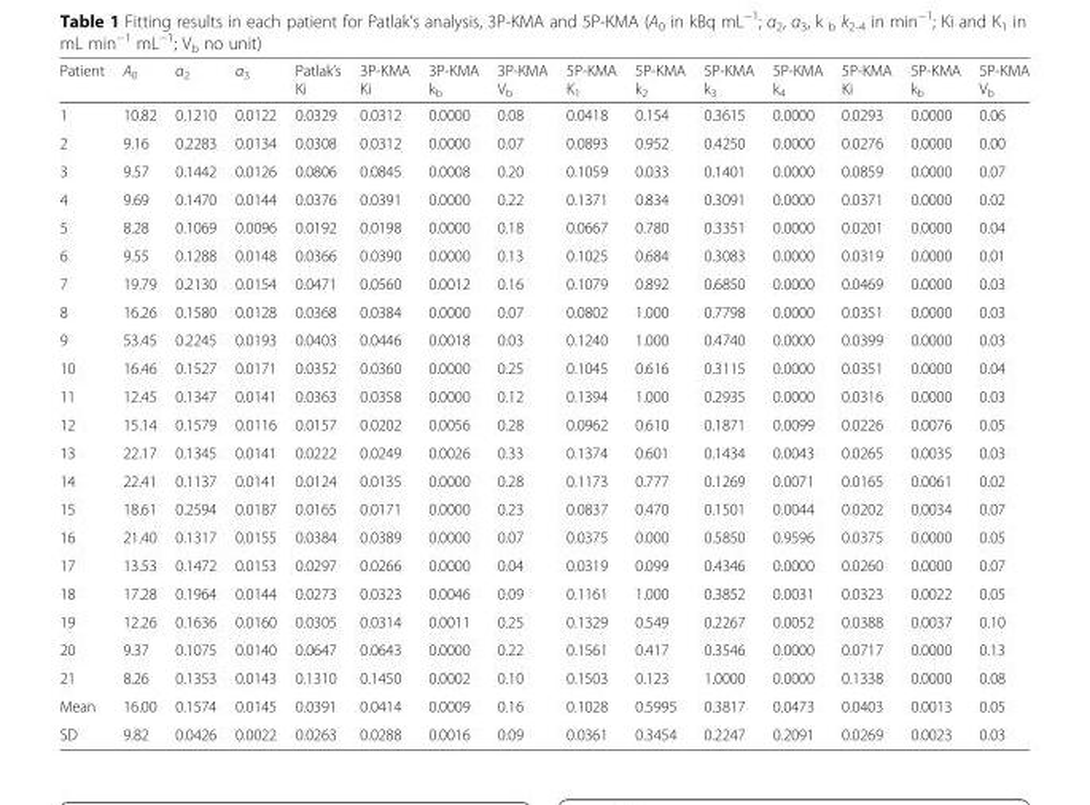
<table><thead><tr><td>Patient</td><td>A<sub>0</sub></td><td>α<sub>2</sub></td><td>α<sub>3</sub></td><td>Patlak’s Ki</td><td>3P-KMA Ki</td><td>3P-KMA k<sub>b</sub></td><td>3P-KMA V<sub>b</sub></td><td>5P-KMA K<sub>1</sub></td><td>5P-KMA k<sub>2</sub></td><td>5P-KMA k<sub>3</sub></td><td>5P-KMA k<sub>4</sub></td><td>5P-KMA Ki</td><td>5P-KMA k<sub>b</sub></td><td>5P-KMA V<sub>b</sub></td></tr></thead><tbody><tr><td>1</td><td>10.82</td><td>0.1210</td><td>0.0122</td><td>0.0329</td><td>0.0312</td><td>0.0000</td><td>0.08</td><td>0.0418</td><td>0.154</td><td>0.3615</td><td>0.0000</td><td>0.0293</td><td>0.0000</td><td>0.06</td></tr><tr><td>2</td><td>9.16</td><td>0.2283</td><td>0.0134</td><td>0.0308</td><td>0.0312</td><td>0.0000</td><td>0.07</td><td>0.0893</td><td>0.952</td><td>0.4250</td><td>0.0000</td><td>0.0276</td><td>0.0000</td><td>0.00</td></tr><tr><td>3</td><td>9.57</td><td>0.1442</td><td>0.0126</td><td>0.0806</td><td>0.0845</td><td>0.0008</td><td>0.20</td><td>0.1059</td><td>0.033</td><td>0.1401</td><td>0.0000</td><td>0.0859</td><td>0.0000</td><td>0.07</td></tr><tr><td>4</td><td>9.69</td><td>0.1470</td><td>0.0144</td><td>0.0376</td><td>0.0391</td><td>0.0000</td><td>0.22</td><td>0.1371</td><td>0.834</td><td>0.3091</td><td>0.0000</td><td>0.0371</td><td>0.0000</td><td>0.02</td></tr><tr><td>5</td><td>8.28</td><td>0.1069</td><td>0.0096</td><td>0.0192</td><td>0.0198</td><td>0.0000</td><td>0.18</td><td>0.0667</td><td>0.780</td><td>0.3351</td><td>0.0000</td><td>0.0201</td><td>0.0000</td><td>0.04</td></tr><tr><td>6</td><td>9.55</td><td>0.1288</td><td>0.0148</td><td>0.0366</td><td>0.0390</td><td>0.0000</td><td>0.13</td><td>0.1025</td><td>0.684</td><td>0.3083</td><td>0.0000</td><td>0.0319</td><td>0.0000</td><td>0.01</td></tr><tr><td>7</td><td>19.79</td><td>0.2130</td><td>0.0154</td><td>0.0471</td><td>0.0560</td><td>0.0012</td><td>0.16</td><td>0.1079</td><td>0.892</td><td>0.6850</td><td>0.0000</td><td>0.0469</td><td>0.0000</td><td>0.03</td></tr><tr><td>8</td><td>16.26</td><td>0.1580</td><td>0.0128</td><td>0.0368</td><td>0.0384</td><td>0.0000</td><td>0.07</td><td>0.0802</td><td>1.000</td><td>0.7798</td><td>0.0000</td><td>0.0351</td><td>0.0000</td><td>0.03</td></tr><tr><td>9</td><td>53.45</td><td>0.2245</td><td>0.0193</td><td>0.0403</td><td>0.0446</td><td>0.0018</td><td>0.03</td><td>0.1240</td><td>1.000</td><td>0.4740</td><td>0.0000</td><td>0.0399</td><td>0.0000</td><td>0.03</td></tr><tr><td>10</td><td>16.46</td><td>0.1527</td><td>0.0171</td><td>0.0352</td><td>0.0360</td><td>0.0000</td><td>0.25</td><td>0.1045</td><td>0.616</td><td>0.3115</td><td>0.0000</td><td>0.0351</td><td>0.0000</td><td>0.04</td></tr><tr><td>11</td><td>12.45</td><td>0.1347</td><td>0.0141</td><td>0.0363</td><td>0.0358</td><td>0.0000</td><td>0.12</td><td>0.1394</td><td>1.000</td><td>0.2935</td><td>0.0000</td><td>0.0316</td><td>0.0000</td><td>0.03</td></tr><tr><td>12</td><td>15.14</td><td>0.1579</td><td>0.0116</td><td>0.0157</td><td>0.0202</td><td>0.0056</td><td>0.28</td><td>0.0962</td><td>0.610</td><td>0.1871</td><td>0.0099</td><td>0.0226</td><td>0.0076</td><td>0.05</td></tr><tr><td>13</td><td>22.17</td><td>0.1345</td><td>0.0141</td><td>0.0222</td><td>0.0249</td><td>0.0026</td><td>0.33</td><td>0.1374</td><td>0.601</td><td>0.1434</td><td>0.0043</td><td>0.0265</td><td>0.0035</td><td>0.03</td></tr><tr><td>14</td><td>22.41</td><td>0.1137</td><td>0.0141</td><td>0.0124</td><td>0.0135</td><td>0.0000</td><td>0.28</td><td>0.1173</td><td>0.777</td><td>0.1269</td><td>0.0071</td><td>0.0165</td><td>0.0061</td><td>0.02</td></tr><tr><td>15</td><td>18.61</td><td>0.2594</td><td>0.0187</td><td>0.0165</td><td>0.0171</td><td>0.0000</td><td>0.23</td><td>0.0837</td><td>0.470</td><td>0.1501</td><td>0.0044</td><td>0.0202</td><td>0.0034</td><td>0.07</td></tr><tr><td>16</td><td>21.40</td><td>0.1317</td><td>0.0155</td><td>0.0384</td><td>0.0389</td><td>0.0000</td><td>0.07</td><td>0.0375</td><td>0.000</td><td>0.5850</td><td>0.9596</td><td>0.0375</td><td>0.0000</td><td>0.05</td></tr><tr><td>17</td><td>13.53</td><td>0.1472</td><td>0.0153</td><td>0.0297</td><td>0.0266</td><td>0.0000</td><td>0.04</td><td>0.0319</td><td>0.099</td><td>0.4346</td><td>0.0000</td><td>0.0260</td><td>0.0000</td><td>0.07</td></tr><tr><td>18</td><td>17.28</td><td>0.1964</td><td>0.0144</td><td>0.0273</td><td>0.0323</td><td>0.0046</td><td>0.09</td><td>0.1161</td><td>1.000</td><td>0.3852</td><td>0.0031</td><td>0.0323</td><td>0.0022</td><td>0.05</td></tr><tr><td>19</td><td>12.26</td><td>0.1636</td><td>0.0160</td><td>0.0305</td><td>0.0314</td><td>0.0011</td><td>0.25</td><td>0.1329</td><td>0.549</td><td>0.2267</td><td>0.0052</td><td>0.0388</td><td>0.0037</td><td>0.10</td></tr><tr><td>20</td><td>9.37</td><td>0.1075</td><td>0.0140</td><td>0.0647</td><td>0.0643</td><td>0.0000</td><td>0.22</td><td>0.1561</td><td>0.417</td><td>0.3546</td><td>0.0000</td><td>0.0717</td><td>0.0000</td><td>0.13</td></tr><tr><td>21</td><td>8.26</td><td>0.1353</td><td>0.0143</td><td>0.1310</td><td>0.1450</td><td>0.0002</td><td>0.10</td><td>0.1503</td><td>0.123</td><td>1.0000</td><td>0.0000</td><td>0.1338</td><td>0.0000</td><td>0.08</td></tr><tr><td>Mean</td><td>16.00</td><td>0.1574</td><td>0.0145</td><td>0.0391</td><td>0.0414</td><td>0.0009</td><td>0.16</td><td>0.1028</td><td>0.5995</td><td>0.3817</td><td>0.0473</td><td>0.0403</td><td>0.0013</td><td>0.05</td></tr><tr><td>SD</td><td>9.82</td><td>0.0426</td><td>0.0022</td><td>0.0263</td><td>0.0288</td><td>0.0016</td><td>0.09</td><td>0.0361</td><td>0.3454</td><td>0.2247</td><td>0.2091</td><td>0.0269</td><td>0.0023</td><td>0.03</td></tr></tbody></table>